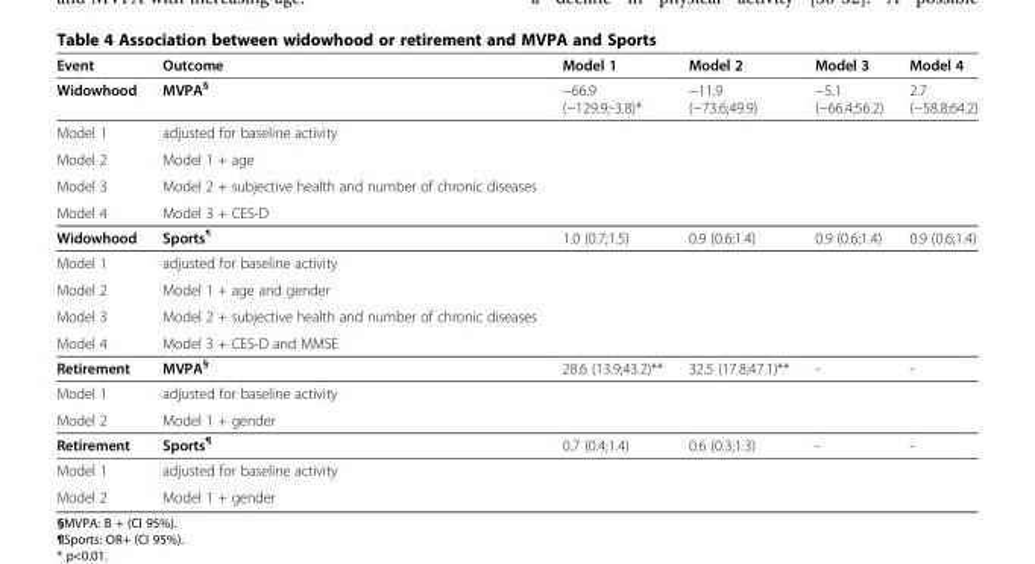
<table><thead><tr><td>Event</td><td>Outcome</td><td>Model 1</td><td>Model 2</td><td>Model 3</td><td>Model 4</td></tr></thead><tbody><tr><td>Widowhood</td><td>MVPA<sup>§</sup></td><td>−66.9 (−129.9;-3.8)*</td><td>−11.9 (−73.6;49.9)</td><td>−5.1 (−66.4;56.2)</td><td>2.7 (−58.8;64.2)</td></tr><tr><td>Model 1</td><td>adjusted for baseline activity</td><td></td><td></td><td></td><td></td></tr><tr><td>Model 2</td><td>Model 1 + age</td><td></td><td></td><td></td><td></td></tr><tr><td>Model 3</td><td>Model 2 + subjective health and number of chronic diseases</td><td></td><td></td><td></td><td></td></tr><tr><td>Model 4</td><td>Model 3 + CES-D</td><td></td><td></td><td></td><td></td></tr><tr><td>Widowhood</td><td>Sports<sup>¶</sup></td><td>1.0 (0.7;1.5)</td><td>0.9 (0.6;1.4)</td><td>0.9 (0.6;1.4)</td><td>0.9 (0.6;1.4)</td></tr><tr><td>Model 1</td><td>adjusted for baseline activity</td><td></td><td></td><td></td><td></td></tr><tr><td>Model 2</td><td>Model 1 + age and gender</td><td></td><td></td><td></td><td></td></tr><tr><td>Model 3</td><td>Model 2 + subjective health and number of chronic diseases</td><td></td><td></td><td></td><td></td></tr><tr><td>Model 4</td><td>Model 3 + CES-D and MMSE</td><td></td><td></td><td></td><td></td></tr><tr><td>Retirement</td><td>MVPA<sup>§</sup></td><td>28.6 (13.9;43.2)**</td><td>32.5 (17.8;47.1)**</td><td>-</td><td>-</td></tr><tr><td>Model 1</td><td>adjusted for baseline activity</td><td></td><td></td><td></td><td></td></tr><tr><td>Model 2</td><td>Model 1 + gender</td><td></td><td></td><td></td><td></td></tr><tr><td>Retirement</td><td>Sports<sup>¶</sup></td><td>0.7 (0.4;1.4)</td><td>0.6 (0.3;1.3)</td><td>-</td><td>-</td></tr><tr><td>Model 1</td><td>adjusted for baseline activity</td><td></td><td></td><td></td><td></td></tr><tr><td>Model 2</td><td>Model 1 + gender</td><td></td><td></td><td></td><td></td></tr></tbody></table>